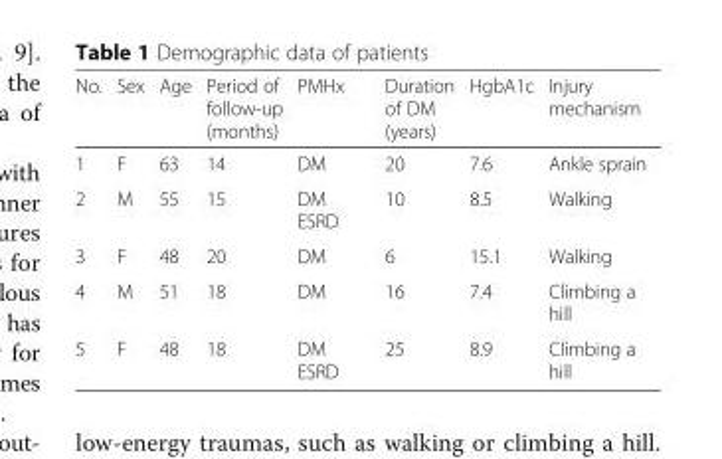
<table><thead><tr><td>No.</td><td>Sex</td><td>Age</td><td>Period of follow-up (months)</td><td>PMHx</td><td>Duration of DM (years)</td><td>HgbA1c</td><td>Injury mechanism</td></tr></thead><tbody><tr><td>1</td><td>F</td><td>63</td><td>14</td><td>DM</td><td>20</td><td>7.6</td><td>Ankle sprain</td></tr><tr><td>2</td><td>M</td><td>55</td><td>15</td><td>DM ESRD</td><td>10</td><td>8.5</td><td>Walking</td></tr><tr><td>3</td><td>F</td><td>48</td><td>20</td><td>DM</td><td>6</td><td>15.1</td><td>Walking</td></tr><tr><td>4</td><td>M</td><td>51</td><td>18</td><td>DM</td><td>16</td><td>7.4</td><td>Climbing a hill</td></tr><tr><td>5</td><td>F</td><td>48</td><td>18</td><td>DM ESRD</td><td>25</td><td>8.9</td><td>Climbing a hill</td></tr></tbody></table>